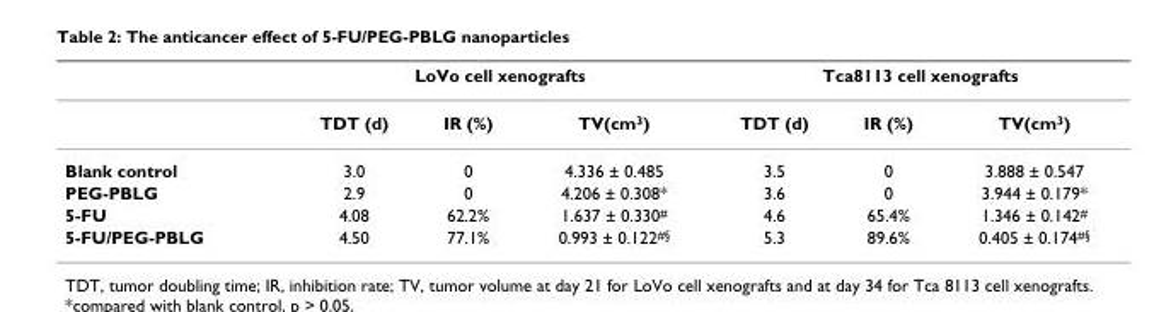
<table><thead><tr><td rowspan="2"></td><td colspan="3">LoVo cell xenografts</td><td colspan="3">Tca8113 cell xenografts</td></tr><tr><td>TDT (d)</td><td>IR (%)</td><td>TV(cm<sup>3</sup>)</td><td>TDT (d)</td><td>IR (%)</td><td>TV(cm<sup>3</sup>)</td></tr></thead><tbody><tr><td>Blank control</td><td>3.0</td><td>0</td><td>4.336 ± 0.485</td><td>3.5</td><td>0</td><td>3.888 ± 0.547</td></tr><tr><td>PEG-PBLG</td><td>2.9</td><td>0</td><td>4.206 ± 0.308*</td><td>3.6</td><td>0</td><td>3.944 ± 0.179*</td></tr><tr><td>5-FU</td><td>4.08</td><td>62.2%</td><td>1.637 ± 0.330<sup>#</sup></td><td>4.6</td><td>65.4%</td><td>1.346 ± 0.142<sup>#</sup></td></tr><tr><td>5-FU/PEG-PBLG</td><td>4.50</td><td>77.1%</td><td>0.993 ± 0.122<sup>#§</sup></td><td>5.3</td><td>89.6%</td><td>0.405 ± 0.174<sup>#§</sup></td></tr></tbody></table>